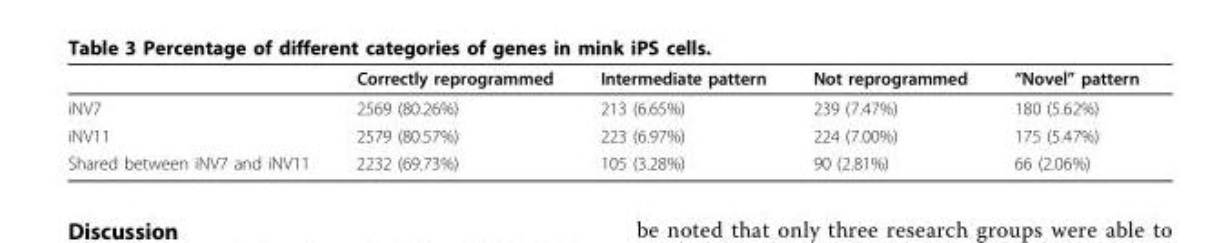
<table><thead><tr><td></td><td>Correctly reprogrammed</td><td>Intermediate pattern</td><td>Not reprogrammed</td><td>“Novel” pattern</td></tr></thead><tbody><tr><td>iNV7</td><td>2569 (80.26%)</td><td>213 (6.65%)</td><td>239 (7.47%)</td><td>180 (5.62%)</td></tr><tr><td>iNV11</td><td>2579 (80.57%)</td><td>223 (6.97%)</td><td>224 (7.00%)</td><td>175 (5.47%)</td></tr><tr><td>Shared between iNV7 and iNV11</td><td>2232 (69.73%)</td><td>105 (3.28%)</td><td>90 (2.81%)</td><td>66 (2.06%)</td></tr></tbody></table>